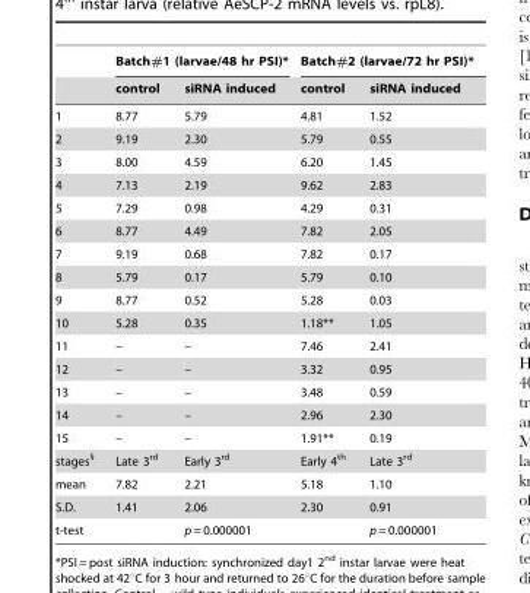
<table><thead><tr><td rowspan="2"></td><td colspan="2">Batch#1 (larvae/48 hr PSI)*</td><td colspan="2">Batch#2 (larvae/72 hr PSI)*</td></tr><tr><td>control</td><td>siRNA induced</td><td>control</td><td>siRNA induced</td></tr></thead><tbody><tr><td>1</td><td>8.77</td><td>5.79</td><td>4.81</td><td>1.52</td></tr><tr><td>2</td><td>9.19</td><td>2.30</td><td>5.79</td><td>0.55</td></tr><tr><td>3</td><td>8.00</td><td>4.59</td><td>6.20</td><td>1.45</td></tr><tr><td>4</td><td>7.13</td><td>2.19</td><td>9.62</td><td>2.83</td></tr><tr><td>5</td><td>7.29</td><td>0.98</td><td>4.29</td><td>0.31</td></tr><tr><td>6</td><td>8.77</td><td>4.49</td><td>7.82</td><td>2.05</td></tr><tr><td>7</td><td>9.19</td><td>0.68</td><td>7.82</td><td>0.17</td></tr><tr><td>8</td><td>5.79</td><td>0.17</td><td>5.79</td><td>0.10</td></tr><tr><td>9</td><td>8.77</td><td>0.52</td><td>5.28</td><td>0.03</td></tr><tr><td>10</td><td>5.28</td><td>0.35</td><td>1.18**</td><td>1.05</td></tr><tr><td>11</td><td>–</td><td>–</td><td>7.46</td><td>2.41</td></tr><tr><td>12</td><td>–</td><td>–</td><td>3.32</td><td>0.95</td></tr><tr><td>13</td><td>–</td><td>–</td><td>3.48</td><td>0.59</td></tr><tr><td>14</td><td>–</td><td>–</td><td>2.96</td><td>2.30</td></tr><tr><td>15</td><td>–</td><td>–</td><td>1.91**</td><td>0.19</td></tr><tr><td>stages§</td><td>Late 3<sup>rd</sup></td><td>Early 3<sup>rd</sup></td><td>Early 4<sup>th</sup></td><td>Late 3<sup>rd</sup></td></tr><tr><td>mean</td><td>7.82</td><td>2.21</td><td>5.18</td><td>1.10</td></tr><tr><td>S.D.</td><td>1.41</td><td>2.06</td><td>2.30</td><td>0.91</td></tr><tr><td>t-test</td><td></td><td>p = 0.000001</td><td></td><td>p = 0.000001</td></tr></tbody></table>